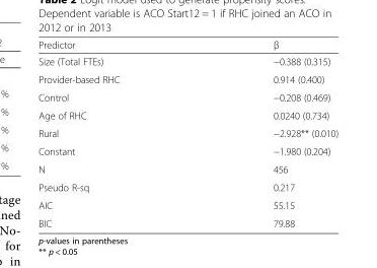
<table><thead><tr><td>Predictor</td><td>β</td></tr></thead><tbody><tr><td>Size (Total FTEs)</td><td>−0.388 (0.315)</td></tr><tr><td>Provider-based RHC</td><td>0.914 (0.400)</td></tr><tr><td>Control</td><td>−0.208 (0.469)</td></tr><tr><td>Age of RHC</td><td>0.0240 (0.734)</td></tr><tr><td>Rural</td><td>−2.928** (0.010)</td></tr><tr><td>Constant</td><td>−1.980 (0.204)</td></tr><tr><td>N</td><td>456</td></tr><tr><td>Pseudo R-sq</td><td>0.217</td></tr><tr><td>AIC</td><td>55.15</td></tr><tr><td>BIC</td><td>79.88</td></tr></tbody></table>